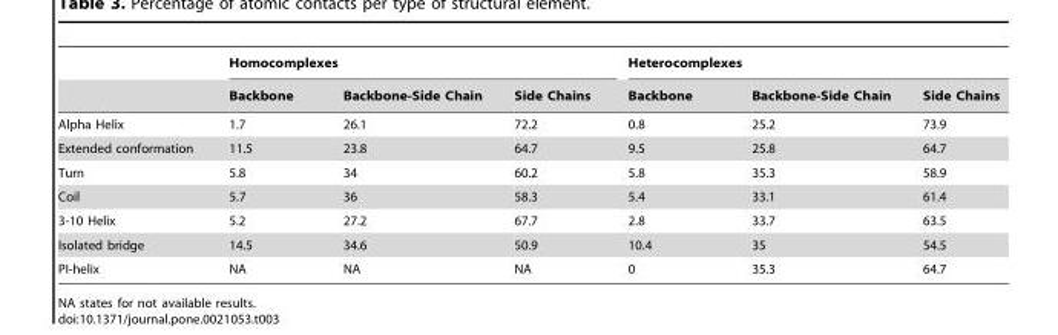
<table><thead><tr><td rowspan="2"></td><td colspan="3">Homocomplexes</td><td colspan="3">Heterocomplexes</td></tr><tr><td>Backbone</td><td>Backbone-Side Chain</td><td>Side Chains</td><td>Backbone</td><td>Backbone-Side Chain</td><td>Side Chains</td></tr></thead><tbody><tr><td>Alpha Helix</td><td>1.7</td><td>26.1</td><td>72.2</td><td>0.8</td><td>25.2</td><td>73.9</td></tr><tr><td>Extended conformation</td><td>11.5</td><td>23.8</td><td>64.7</td><td>9.5</td><td>25.8</td><td>64.7</td></tr><tr><td>Turn</td><td>5.8</td><td>34</td><td>60.2</td><td>5.8</td><td>35.3</td><td>58.9</td></tr><tr><td>Coil</td><td>5.7</td><td>36</td><td>58.3</td><td>5.4</td><td>33.1</td><td>61.4</td></tr><tr><td>3-10 Helix</td><td>5.2</td><td>27.2</td><td>67.7</td><td>2.8</td><td>33.7</td><td>63.5</td></tr><tr><td>Isolated bridge</td><td>14.5</td><td>34.6</td><td>50.9</td><td>10.4</td><td>35</td><td>54.5</td></tr><tr><td>PI-helix</td><td>NA</td><td>NA</td><td>NA</td><td>0</td><td>35.3</td><td>64.7</td></tr></tbody></table>